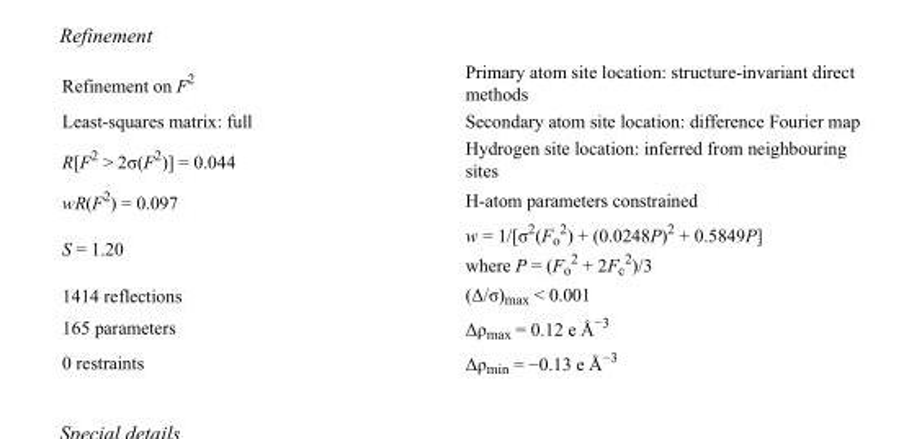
<table><tbody><tr><td>Refinement on F<sup>2</sup></td><td>Primary atom site location: structure-invariant direct methods</td></tr><tr><td>Least-squares matrix: full</td><td>Secondary atom site location: difference Fourier map</td></tr><tr><td>R[F<sup>2</sup> &gt; 2σ(F<sup>2</sup>)] = 0.044</td><td>Hydrogen site location: inferred from neighbouring sites</td></tr><tr><td>wR(F<sup>2</sup>) = 0.097</td><td>H-atom parameters constrained</td></tr><tr><td>S = 1.20</td><td>w = 1/[σ<sup>2</sup>(F<sub>o</sub> <sup>2</sup>) + (0.0248P)<sup>2</sup> + 0.5849P] where P = (F<sub>o</sub> <sup>2</sup> + 2F<sub>c</sub> <sup>2</sup>)/3</td></tr><tr><td>1414 reflections</td><td>(Δ/σ)<sub>max</sub> &lt; 0.001</td></tr><tr><td>165 parameters</td><td>Δρ<sub>max</sub> = 0.12 e Å<sup>−3</sup></td></tr><tr><td>0 restraints</td><td>Δρ<sub>min</sub> = −0.13 e Å<sup>−3</sup></td></tr></tbody></table>